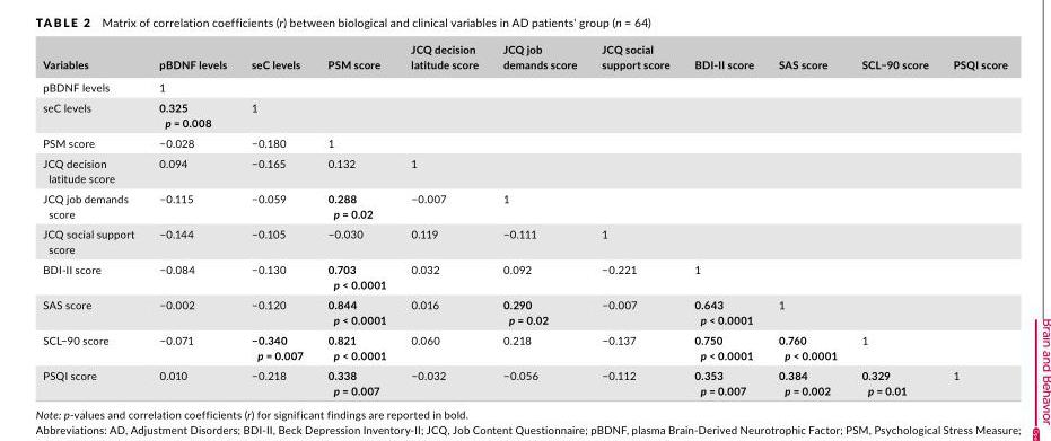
<table><thead><tr><td>Variables</td><td>pBDNF levels</td><td>seC levels</td><td>PSM score</td><td>JCQ decision latitude score</td><td>JCQ job demands score</td><td>JCQ social support score</td><td>BDI‐II score</td><td>SAS score</td><td>SCL−90 score</td><td>PSQI score</td></tr></thead><tbody><tr><td>pBDNF levels</td><td>1</td><td></td><td></td><td></td><td></td><td></td><td></td><td></td><td></td><td></td></tr><tr><td>seC levels</td><td>0.325 p = 0.008</td><td>1</td><td></td><td></td><td></td><td></td><td></td><td></td><td></td><td></td></tr><tr><td>PSM score</td><td>−0.028</td><td>−0.180</td><td>1</td><td></td><td></td><td></td><td></td><td></td><td></td><td></td></tr><tr><td>JCQ decision latitude score</td><td>0.094</td><td>−0.165</td><td>0.132</td><td>1</td><td></td><td></td><td></td><td></td><td></td><td></td></tr><tr><td>JCQ job demands score</td><td>−0.115</td><td>−0.059</td><td>0.288 p = 0.02</td><td>−0.007</td><td>1</td><td></td><td></td><td></td><td></td><td></td></tr><tr><td>JCQ social support score</td><td>−0.144</td><td>−0.105</td><td>−0.030</td><td>0.119</td><td>−0.111</td><td>1</td><td></td><td></td><td></td><td></td></tr><tr><td>BDI‐II score</td><td>−0.084</td><td>−0.130</td><td>0.703 p &lt; 0.0001</td><td>0.032</td><td>0.092</td><td>−0.221</td><td>1</td><td></td><td></td><td></td></tr><tr><td>SAS score</td><td>−0.002</td><td>−0.120</td><td>0.844 p &lt; 0.0001</td><td>0.016</td><td>0.290 p = 0.02</td><td>−0.007</td><td>0.643 p &lt; 0.0001</td><td>1</td><td></td><td></td></tr><tr><td>SCL−90 score</td><td>−0.071</td><td>−0.340 p = 0.007</td><td>0.821 p &lt; 0.0001</td><td>0.060</td><td>0.218</td><td>−0.137</td><td>0.750 p &lt; 0.0001</td><td>0.760 p &lt; 0.0001</td><td>1</td><td></td></tr><tr><td>PSQI score</td><td>0.010</td><td>−0.218</td><td>0.338 p = 0.007</td><td>−0.032</td><td>−0.056</td><td>−0.112</td><td>0.353 p = 0.007</td><td>0.384 p = 0.002</td><td>0.329 p = 0.01</td><td>1</td></tr></tbody></table>